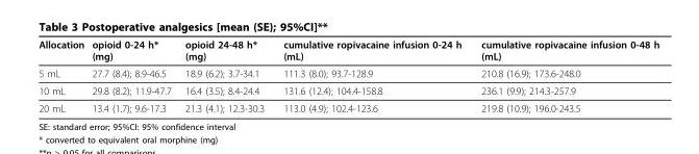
<table><thead><tr><td>Allocation</td><td>opioid 0-24 h* (mg)</td><td>opioid 24-48 h* (mg)</td><td>cumulative ropivacaine infusion 0-24 h (mL)</td><td>cumulative ropivacaine infusion 0-48 h (mL)</td></tr></thead><tbody><tr><td>5 mL</td><td>27.7 (8.4); 8.9-46.5</td><td>18.9 (6.2); 3.7-34.1</td><td>111.3 (8.0); 93.7-128.9</td><td>210.8 (16.9); 173.6-248.0</td></tr><tr><td>10 mL</td><td>29.8 (8.2); 11.9-47.7</td><td>16.4 (3.5); 8.4-24.4</td><td>131.6 (12.4); 104.4-158.8</td><td>236.1 (9.9); 214.3-257.9</td></tr><tr><td>20 mL</td><td>13.4 (1.7); 9.6-17.3</td><td>21.3 (4.1); 12.3-30.3</td><td>113.0 (4.9); 102.4-123.6</td><td>219.8 (10.9); 196.0-243.5</td></tr></tbody></table>